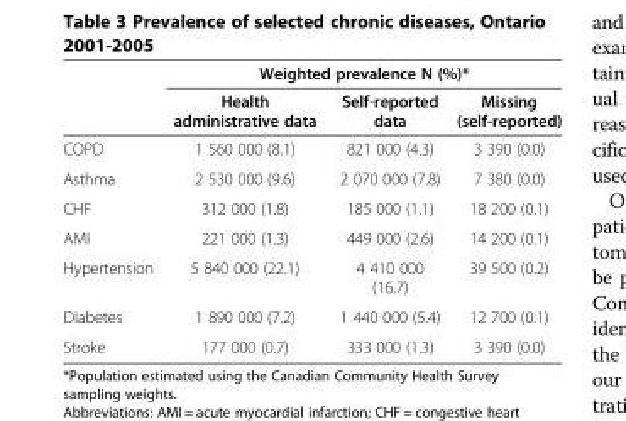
<table><thead><tr><td rowspan="2"></td><td colspan="3">Weighted prevalence N (%)*</td></tr><tr><td>Health administrative data</td><td>Self-reported data</td><td>Missing (self-reported)</td></tr></thead><tbody><tr><td>COPD</td><td>1 560 000 (8.1)</td><td>821 000 (4.3)</td><td>3 390 (0.0)</td></tr><tr><td>Asthma</td><td>2 530 000 (9.6)</td><td>2 070 000 (7.8)</td><td>7 380 (0.0)</td></tr><tr><td>CHF</td><td>312 000 (1.8)</td><td>185 000 (1.1)</td><td>18 200 (0.1)</td></tr><tr><td>AMI</td><td>221 000 (1.3)</td><td>449 000 (2.6)</td><td>14 200 (0.1)</td></tr><tr><td>Hypertension</td><td>5 840 000 (22.1)</td><td>4 410 000 (16.7)</td><td>39 500 (0.2)</td></tr><tr><td>Diabetes</td><td>1 890 000 (7.2)</td><td>1 440 000 (5.4)</td><td>12 700 (0.1)</td></tr><tr><td>Stroke</td><td>177 000 (0.7)</td><td>333 000 (1.3)</td><td>3 390 (0.0)</td></tr></tbody></table>